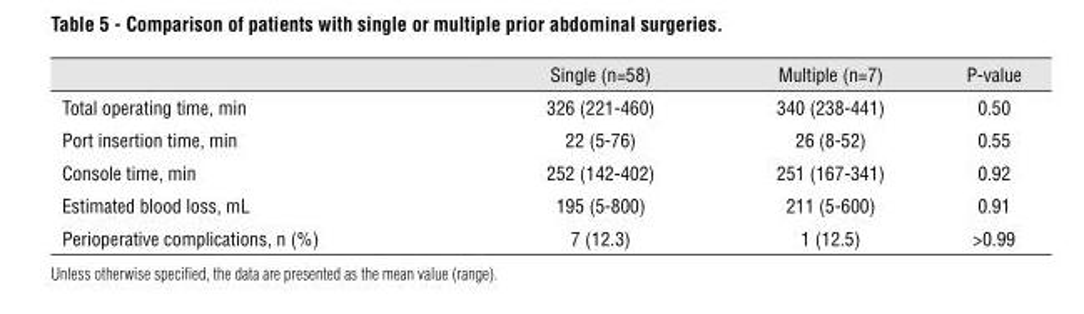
<table><thead><tr><td></td><td>Single (n=58)</td><td>Multiple (n=7)</td><td>P-value</td></tr></thead><tbody><tr><td>Total operating time, min</td><td>326 (221-460)</td><td>340 (238-441)</td><td>0.50</td></tr><tr><td>Port insertion time, min</td><td>22 (5-76)</td><td>26 (8-52)</td><td>0.55</td></tr><tr><td>Console time, min</td><td>252 (142-402)</td><td>251 (167-341)</td><td>0.92</td></tr><tr><td>Estimated blood loss, mL</td><td>195 (5-800)</td><td>211 (5-600)</td><td>0.91</td></tr><tr><td>Perioperative complications, n (%)</td><td>7 (12.3)</td><td>1 (12.5)</td><td>&gt;0.99</td></tr></tbody></table>